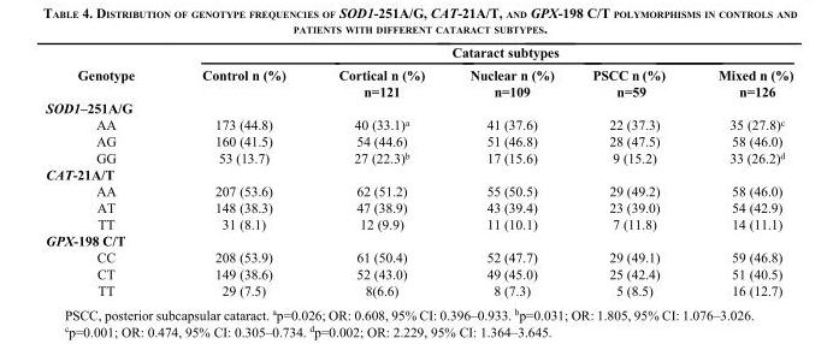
<table><thead><tr><td rowspan="2">Genotype</td><td colspan="5">Cataract subtypes</td></tr><tr><td>Control n (%)</td><td>Cortical n (%) n=121</td><td>Nuclear n (%) n=109</td><td>n=59 PSCC n (%)</td><td>Mixed n (%) n=126</td></tr></thead><tbody><tr><td colspan="6">SOD1–251A/G</td></tr><tr><td>AA</td><td>173 (44.8)</td><td>40 (33.1)<sup>a</sup></td><td>41 (37.6)</td><td>22 (37.3)</td><td>35 (27.8)<sup>c</sup></td></tr><tr><td>AG</td><td>160 (41.5)</td><td>54 (44.6)</td><td>51 (46.8)</td><td>28 (47.5)</td><td>58 (46.0)</td></tr><tr><td>GG</td><td>53 (13.7)</td><td>27 (22.3)<sup>b</sup></td><td>17 (15.6)</td><td>9 (15.2)</td><td>33 (26.2)<sup>d</sup></td></tr><tr><td colspan="6">CAT-21A/T</td></tr><tr><td>AA</td><td>207 (53.6)</td><td>62 (51.2)</td><td>55 (50.5)</td><td>29 (49.2)</td><td>58 (46.0)</td></tr><tr><td>AT</td><td>148 (38.3)</td><td>47 (38.9)</td><td>43 (39.4)</td><td>23 (39.0)</td><td>54 (42.9)</td></tr><tr><td>TT</td><td>31 (8.1)</td><td>12 (9.9)</td><td>11 (10.1)</td><td>7 (11.8)</td><td>14 (11.1)</td></tr><tr><td colspan="6">GPX-198 C/T</td></tr><tr><td>CC</td><td>208 (53.9)</td><td>61 (50.4)</td><td>52 (47.7)</td><td>29 (49.1)</td><td>59 (46.8)</td></tr><tr><td>CT</td><td>149 (38.6)</td><td>52 (43.0)</td><td>49 (45.0)</td><td>25 (42.4)</td><td>51 (40.5)</td></tr><tr><td>TT</td><td>29 (7.5)</td><td>8(6.6)</td><td>8 (7.3)</td><td>5 (8.5)</td><td>16 (12.7)</td></tr></tbody></table>